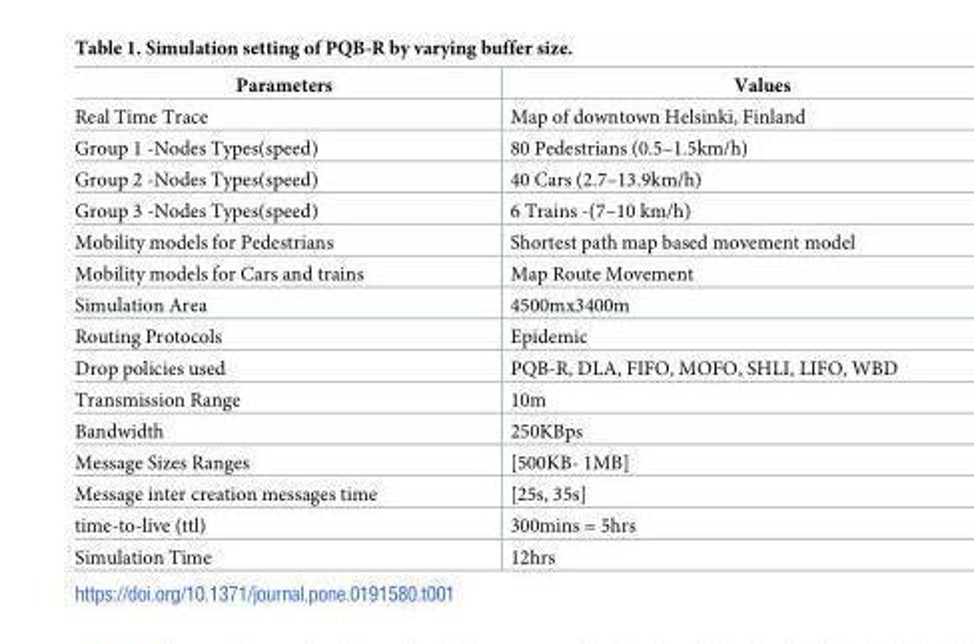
<table><thead><tr><td>Parameters</td><td>Values</td></tr></thead><tbody><tr><td>Real Time Trace</td><td>Map of downtown Helsinki, Finland</td></tr><tr><td>Group 1 -Nodes Types(speed)</td><td>80 Pedestrians (0.5–1.5km/h)</td></tr><tr><td>Group 2 -Nodes Types(speed)</td><td>40 Cars (2.7–13.9km/h)</td></tr><tr><td>Group 3 -Nodes Types(speed)</td><td>6 Trains -(7–10 km/h)</td></tr><tr><td>Mobility models for Pedestrians</td><td>Shortest path map based movement model</td></tr><tr><td>Mobility models for Cars and trains</td><td>Map Route Movement</td></tr><tr><td>Simulation Area</td><td>4500mx3400m</td></tr><tr><td>Routing Protocols</td><td>Epidemic</td></tr><tr><td>Drop policies used</td><td>PQB-R, DLA, FIFO, MOFO, SHLI, LIFO, WBD</td></tr><tr><td>Transmission Range</td><td>10m</td></tr><tr><td>Bandwidth</td><td>250KBps</td></tr><tr><td>Message Sizes Ranges</td><td>[500KB- 1MB]</td></tr><tr><td>Message inter creation messages time</td><td>[25s, 35s]</td></tr><tr><td>time-to-live (ttl)</td><td>300mins = 5hrs</td></tr><tr><td>Simulation Time</td><td>12hrs</td></tr></tbody></table>